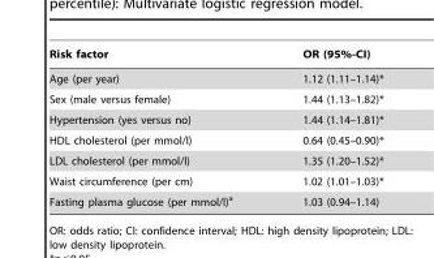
<table><thead><tr><td>Risk factor</td><td>OR (95%-CI)</td></tr></thead><tbody><tr><td>Age (per year)</td><td>1.12 (1.11–1.14)*</td></tr><tr><td>Sex (male versus female)</td><td>1.44 (1.13–1.82)*</td></tr><tr><td>Hypertension (yes versus no)</td><td>1.44 (1.14–1.81)*</td></tr><tr><td>HDL cholesterol (per mmol/l)</td><td>0.64 (0.45–0.90)*</td></tr><tr><td>LDL cholesterol (per mmol/l)</td><td>1.35 (1.20–1.52)*</td></tr><tr><td>Waist circumference (per cm)</td><td>1.02 (1.01–1.03)*</td></tr><tr><td>Fasting plasma glucose (per mmol/l)<sup>a</sup></td><td>1.03 (0.94–1.14)</td></tr></tbody></table>